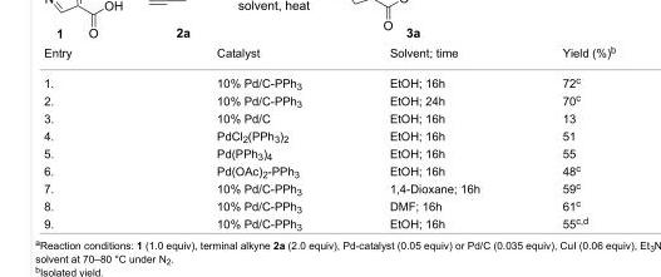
<table><tbody><tr><td>Entry</td><td>Catalyst</td><td>Solvent; time</td><td>Yield (%)<sup>b</sup></td></tr><tr><td>1.</td><td>10% Pd/C-PPh<sub>3</sub></td><td>EtOH; 16h</td><td>72<sup>c</sup></td></tr><tr><td>2.</td><td>10% Pd/C-PPh<sub>3</sub></td><td>EtOH; 24h</td><td>70<sup>c</sup></td></tr><tr><td>3.</td><td>10% Pd/C</td><td>EtOH; 16h</td><td>13</td></tr><tr><td>4.</td><td>PdCl<sub>2</sub>(PPh<sub>3</sub>)<sub>2</sub></td><td>EtOH; 16h</td><td>51</td></tr><tr><td>5.</td><td>Pd(PPh<sub>3</sub>)<sub>4</sub></td><td>EtOH; 16h</td><td>55</td></tr><tr><td>6.</td><td>Pd(OAc)<sub>2</sub>-PPh<sub>3</sub></td><td>EtOH; 16h</td><td>48<sup>c</sup></td></tr><tr><td>7.</td><td>10% Pd/C-PPh<sub>3</sub></td><td>1,4-Dioxane; 16h</td><td>59<sup>c</sup></td></tr><tr><td>8.</td><td>10% Pd/C-PPh<sub>3</sub></td><td>DMF; 16h</td><td>61<sup>c</sup></td></tr><tr><td>9.</td><td>10% Pd/C-PPh<sub>3</sub></td><td>EtOH; 16h</td><td>55<sup>c,d</sup></td></tr></tbody></table>